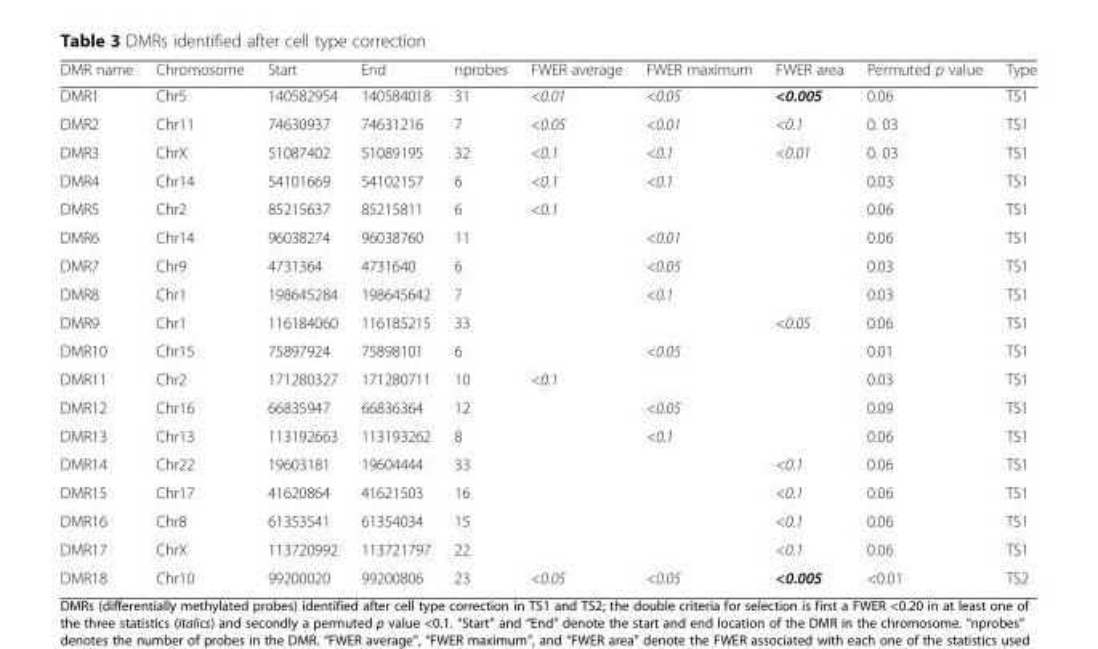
<table><thead><tr><td>DMR name</td><td>Chromosome</td><td>Start</td><td>End</td><td>nprobes</td><td>FWER average</td><td>FWER maximum</td><td>FWER area</td><td>Permuted p value</td><td>Type</td></tr></thead><tbody><tr><td>DMR1</td><td>Chr5</td><td>140582954</td><td>140584018</td><td>31</td><td>&lt;0.01</td><td>&lt;0.05</td><td>&lt;0.005</td><td>0.06</td><td>TS1</td></tr><tr><td>DMR2</td><td>Chr11</td><td>74630937</td><td>74631216</td><td>7</td><td>&lt;0.05</td><td>&lt;0.01</td><td>&lt;0.1</td><td>0. 03</td><td>TS1</td></tr><tr><td>DMR3</td><td>ChrX</td><td>51087402</td><td>51089195</td><td>32</td><td>&lt;0.1</td><td>&lt;0.1</td><td>&lt;0.01</td><td>0. 03</td><td>TS1</td></tr><tr><td>DMR4</td><td>Chr14</td><td>54101669</td><td>54102157</td><td>6</td><td>&lt;0.1</td><td>&lt;0.1</td><td></td><td>0.03</td><td>TS1</td></tr><tr><td>DMR5</td><td>Chr2</td><td>85215637</td><td>85215811</td><td>6</td><td>&lt;0.1</td><td></td><td></td><td>0.06</td><td>TS1</td></tr><tr><td>DMR6</td><td>Chr14</td><td>96038274</td><td>96038760</td><td>11</td><td></td><td>&lt;0.01</td><td></td><td>0.06</td><td>TS1</td></tr><tr><td>DMR7</td><td>Chr9</td><td>4731364</td><td>4731640</td><td>6</td><td></td><td>&lt;0.05</td><td></td><td>0.03</td><td>TS1</td></tr><tr><td>DMR8</td><td>Chr1</td><td>198645284</td><td>198645642</td><td>7</td><td></td><td>&lt;0.1</td><td></td><td>0.03</td><td>TS1</td></tr><tr><td>DMR9</td><td>Chr1</td><td>116184060</td><td>116185215</td><td>33</td><td></td><td></td><td>&lt;0.05</td><td>0.06</td><td>TS1</td></tr><tr><td>DMR10</td><td>Chr15</td><td>75897924</td><td>75898101</td><td>6</td><td></td><td>&lt;0.05</td><td></td><td>0.01</td><td>TS1</td></tr><tr><td>DMR11</td><td>Chr2</td><td>171280327</td><td>171280711</td><td>10</td><td>&lt;0.1</td><td></td><td></td><td>0.03</td><td>TS1</td></tr><tr><td>DMR12</td><td>Chr16</td><td>66835947</td><td>66836364</td><td>12</td><td></td><td>&lt;0.05</td><td></td><td>0.09</td><td>TS1</td></tr><tr><td>DMR13</td><td>Chr13</td><td>113192663</td><td>113193262</td><td>8</td><td></td><td>&lt;0.1</td><td></td><td>0.06</td><td>TS1</td></tr><tr><td>DMR14</td><td>Chr22</td><td>19603181</td><td>19604444</td><td>33</td><td></td><td></td><td>&lt;0.1</td><td>0.06</td><td>TS1</td></tr><tr><td>DMR15</td><td>Chr17</td><td>41620864</td><td>41621503</td><td>16</td><td></td><td></td><td>&lt;0.1</td><td>0.06</td><td>TS1</td></tr><tr><td>DMR16</td><td>Chr8</td><td>61353541</td><td>61354034</td><td>15</td><td></td><td></td><td>&lt;0.1</td><td>0.06</td><td>TS1</td></tr><tr><td>DMR17</td><td>ChrX</td><td>113720992</td><td>113721797</td><td>22</td><td></td><td></td><td>&lt;0.1</td><td>0.06</td><td>TS1</td></tr><tr><td>DMR18</td><td>Chr10</td><td>99200020</td><td>99200806</td><td>23</td><td>&lt;0.05</td><td>&lt;0.05</td><td>&lt;0.005</td><td>&lt;0.01</td><td>TS2</td></tr></tbody></table>